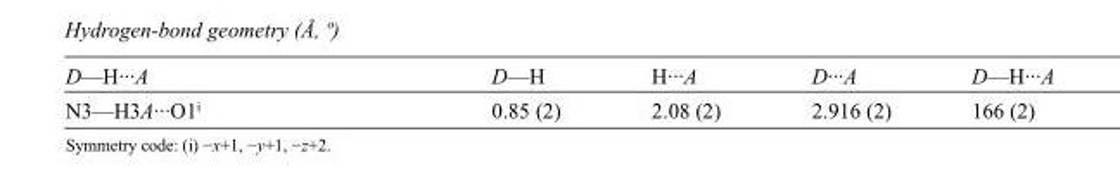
<table><tbody><tr><td>D—H···A</td><td>D—H</td><td>H···A</td><td>D···A</td><td>D—H···A</td></tr><tr><td>N3—H3A···O1<sup>i</sup></td><td>0.85 (2)</td><td>2.08 (2)</td><td>2.916 (2)</td><td>166 (2)</td></tr></tbody></table>